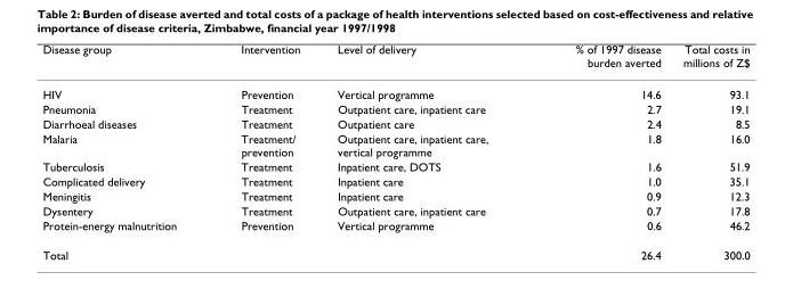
<table><thead><tr><td>Disease group</td><td>Intervention</td><td>Level of delivery</td><td>% of 1997 disease burden averted</td><td>Total costs in millions of Z$</td></tr></thead><tbody><tr><td>HIV</td><td>Prevention</td><td>Vertical programme</td><td>14.6</td><td>93.1</td></tr><tr><td>Pneumonia</td><td>Treatment</td><td>Outpatient care, inpatient care</td><td>2.7</td><td>19.1</td></tr><tr><td>Diarrhoeal diseases</td><td>Treatment</td><td>Outpatient care</td><td>2.4</td><td>8.5</td></tr><tr><td>Malaria</td><td>Treatment/ prevention</td><td>Outpatient care, inpatient care, vertical programme</td><td>1.8</td><td>16.0</td></tr><tr><td>Tuberculosis</td><td>Treatment</td><td>Inpatient care, DOTS</td><td>1.6</td><td>51.9</td></tr><tr><td>Complicated delivery</td><td>Treatment</td><td>Inpatient care</td><td>1.0</td><td>35.1</td></tr><tr><td>Meningitis</td><td>Treatment</td><td>Inpatient care</td><td>0.9</td><td>12.3</td></tr><tr><td>Dysentery</td><td>Treatment</td><td>Outpatient care, inpatient care</td><td>0.7</td><td>17.8</td></tr><tr><td>Protein-energy malnutrition</td><td>Prevention</td><td>Vertical programme</td><td>0.6</td><td>46.2</td></tr><tr><td>Total</td><td></td><td></td><td>26.4</td><td>300.0</td></tr></tbody></table>